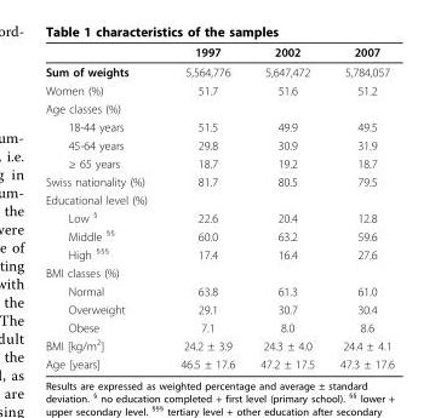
<table><thead><tr><td></td><td>1997</td><td>2002</td><td>2007</td></tr></thead><tbody><tr><td>Sum of weights</td><td>5,564,776</td><td>5,647,472</td><td>5,784,057</td></tr><tr><td>Women (%)</td><td>51.7</td><td>51.6</td><td>51.2</td></tr><tr><td colspan="4">Age classes (%)</td></tr><tr><td>18-44 years</td><td>51.5</td><td>49.9</td><td>49.5</td></tr><tr><td>45-64 years</td><td>29.8</td><td>30.9</td><td>31.9</td></tr><tr><td>≥ 65 years</td><td>18.7</td><td>19.2</td><td>18.7</td></tr><tr><td>Swiss nationality (%)</td><td>81.7</td><td>80.5</td><td>79.5</td></tr><tr><td colspan="4">Educational level (%)</td></tr><tr><td>Low <sup>§</sup></td><td>22.6</td><td>20.4</td><td>12.8</td></tr><tr><td>Middle <sup>§§</sup></td><td>60.0</td><td>63.2</td><td>59.6</td></tr><tr><td>High <sup>§§§</sup></td><td>17.4</td><td>16.4</td><td>27.6</td></tr><tr><td colspan="4">BMI classes (%)</td></tr><tr><td>Normal</td><td>63.8</td><td>61.3</td><td>61.0</td></tr><tr><td>Overweight</td><td>29.1</td><td>30.7</td><td>30.4</td></tr><tr><td>Obese</td><td>7.1</td><td>8.0</td><td>8.6</td></tr><tr><td>BMI [kg/m<sup>2</sup>]</td><td>24.2 ± 3.9</td><td>24.3 ± 4.0</td><td>24.4 ± 4.1</td></tr><tr><td>Age [years]</td><td>46.5 ± 17.6</td><td>47.2 ± 17.5</td><td>47.3 ± 17.6</td></tr></tbody></table>